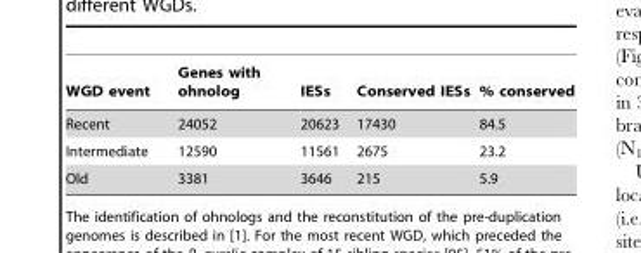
<table><thead><tr><td>WGD event</td><td>Genes with ohnolog</td><td>IESs</td><td>Conserved IESs</td><td>% conserved</td></tr></thead><tbody><tr><td>Recent</td><td>24052</td><td>20623</td><td>17430</td><td>84.5</td></tr><tr><td>Intermediate</td><td>12590</td><td>11561</td><td>2675</td><td>23.2</td></tr><tr><td>Old</td><td>3381</td><td>3646</td><td>215</td><td>5.9</td></tr></tbody></table>